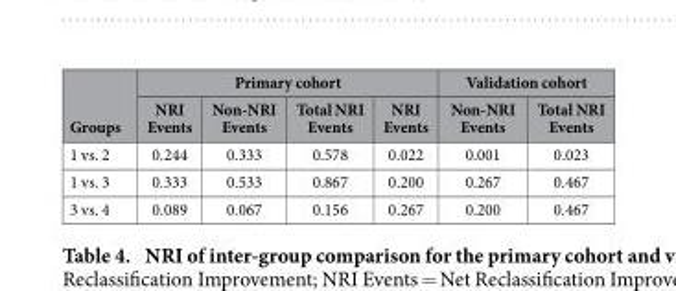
<table><thead><tr><td rowspan="2">Groups</td><td colspan="4">Primary cohort</td><td colspan="2">Validation cohort</td></tr><tr><td>NRI Events</td><td>Non-NRI Events</td><td>Total NRI Events</td><td>NRI Events</td><td>Non-NRI Events</td><td>Total NRI Events</td></tr></thead><tbody><tr><td>1 vs. 2</td><td>0.244</td><td>0.333</td><td>0.578</td><td>0.022</td><td>0.001</td><td>0.023</td></tr><tr><td>1 vs. 3</td><td>0.333</td><td>0.533</td><td>0.867</td><td>0.200</td><td>0.267</td><td>0.467</td></tr><tr><td>3 vs. 4</td><td>0.089</td><td>0.067</td><td>0.156</td><td>0.267</td><td>0.200</td><td>0.467</td></tr></tbody></table>